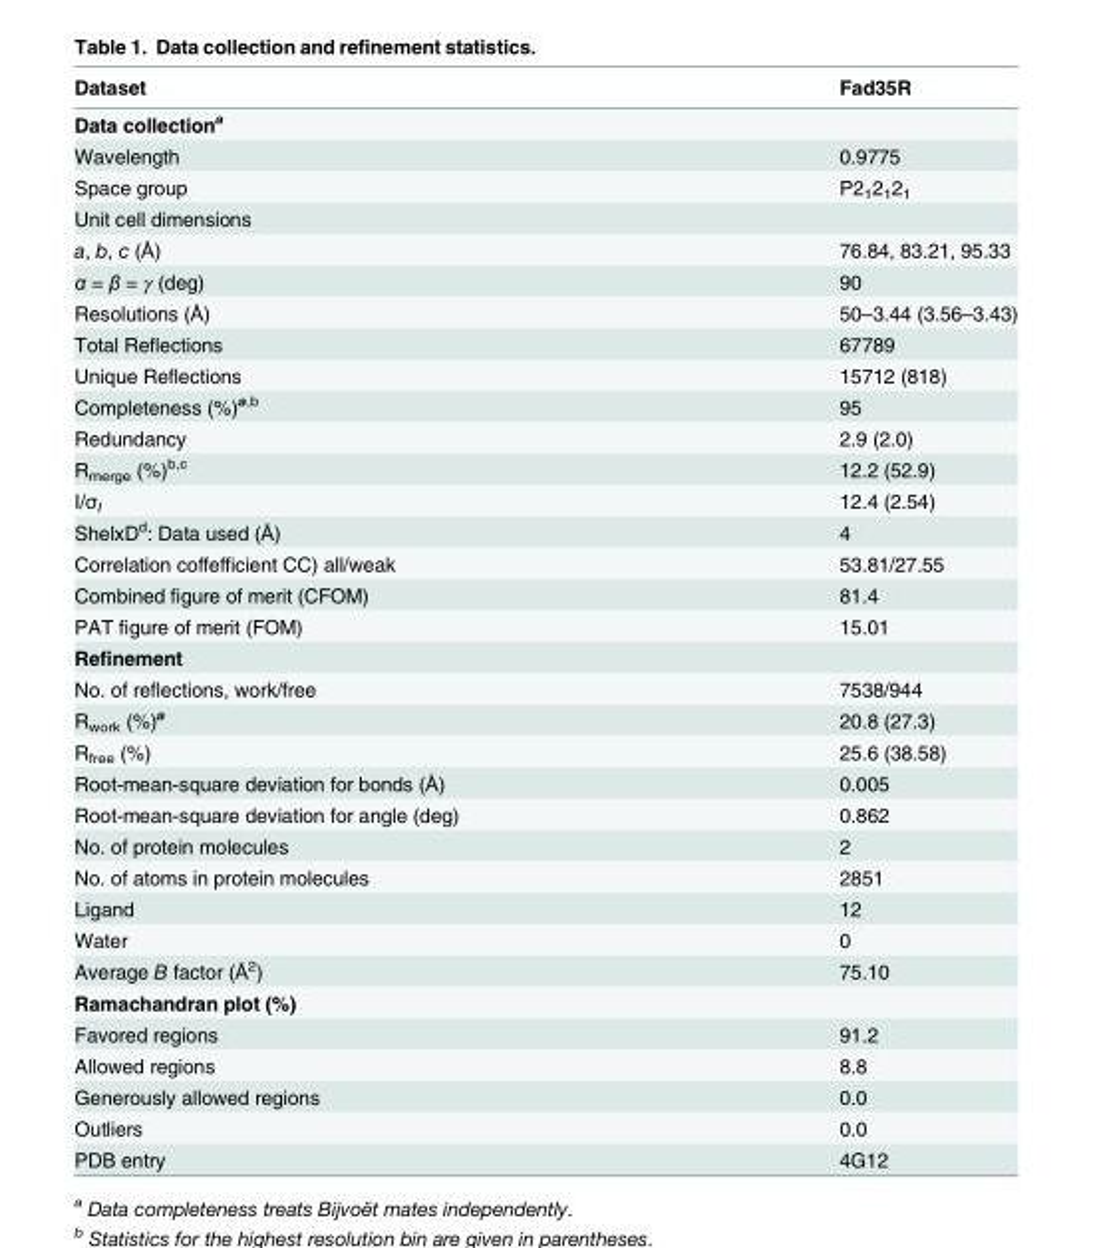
<table><thead><tr><td>Dataset</td><td>Fad35R</td></tr></thead><tbody><tr><td colspan="2">Data collection<sup>a</sup></td></tr><tr><td>Wavelength</td><td>0.9775</td></tr><tr><td>Space group</td><td>P2<sub>1</sub>2<sub>1</sub>2<sub>1</sub></td></tr><tr><td colspan="2">Unit cell dimensions</td></tr><tr><td>a, b, c (Å)</td><td>76.84, 83.21, 95.33</td></tr><tr><td>α = β = γ (deg)</td><td>90</td></tr><tr><td>Resolutions (Å)</td><td>50–3.44 (3.56–3.43)</td></tr><tr><td>Total Reflections</td><td>67789</td></tr><tr><td>Unique Reflections</td><td>15712 (818)</td></tr><tr><td>Completeness (%)<sup>a,b</sup></td><td>95</td></tr><tr><td>Redundancy</td><td>2.9 (2.0)</td></tr><tr><td>R<sub>merge</sub> (%)<sup>b,c</sup></td><td>12.2 (52.9)</td></tr><tr><td>I/σ<sub>I</sub></td><td>12.4 (2.54)</td></tr><tr><td>ShelxD<sup>d</sup>: Data used (Å)</td><td>4</td></tr><tr><td>Correlation coffefficient CC) all/weak</td><td>53.81/27.55</td></tr><tr><td>Combined figure of merit (CFOM)</td><td>81.4</td></tr><tr><td>PAT figure of merit (FOM)</td><td>15.01</td></tr><tr><td colspan="2">Refinement</td></tr><tr><td>No. of reflections, work/free</td><td>7538/944</td></tr><tr><td>R<sub>work</sub> (%)<sup>a</sup></td><td>20.8 (27.3)</td></tr><tr><td>R<sub>free</sub> (%)</td><td>25.6 (38.58)</td></tr><tr><td>Root-mean-square deviation for bonds (Å)</td><td>0.005</td></tr><tr><td>Root-mean-square deviation for angle (deg)</td><td>0.862</td></tr><tr><td>No. of protein molecules</td><td>2</td></tr><tr><td>No. of atoms in protein molecules</td><td>2851</td></tr><tr><td>Ligand</td><td>12</td></tr><tr><td>Water</td><td>0</td></tr><tr><td>Average B factor (Å<sup>2</sup>)</td><td>75.10</td></tr><tr><td colspan="2">Ramachandran plot (%)</td></tr><tr><td>Favored regions</td><td>91.2</td></tr><tr><td>Allowed regions</td><td>8.8</td></tr><tr><td>Generously allowed regions</td><td>0.0</td></tr><tr><td>Outliers</td><td>0.0</td></tr><tr><td>PDB entry</td><td>4G12</td></tr></tbody></table>